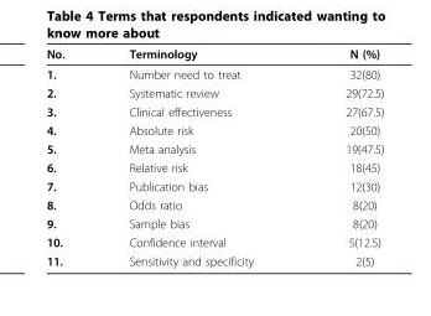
<table><thead><tr><td>No.</td><td>Terminology</td><td>N (%)</td></tr></thead><tbody><tr><td>1.</td><td>Number need to treat</td><td>32(80)</td></tr><tr><td>2.</td><td>Systematic review</td><td>29(72.5)</td></tr><tr><td>3.</td><td>Clinical effectiveness</td><td>27(67.5)</td></tr><tr><td>4.</td><td>Absolute risk</td><td>20(50)</td></tr><tr><td>5.</td><td>Meta analysis</td><td>19(47.5)</td></tr><tr><td>6.</td><td>Relative risk</td><td>18(45)</td></tr><tr><td>7.</td><td>Publication bias</td><td>12(30)</td></tr><tr><td>8.</td><td>Odds ratio</td><td>8(20)</td></tr><tr><td>9.</td><td>Sample bias</td><td>8(20)</td></tr><tr><td>10.</td><td>Confidence interval</td><td>5(12.5)</td></tr><tr><td>11.</td><td>Sensitivity and specificity</td><td>2(5)</td></tr></tbody></table>